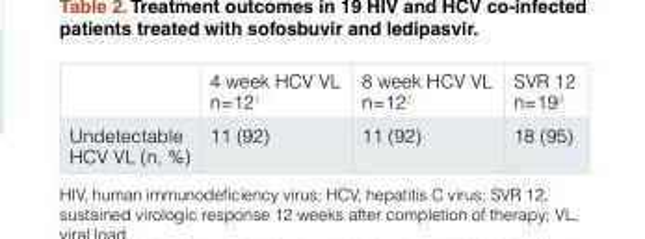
<table><thead><tr><td></td><td>4 week HCV VL n=12<sup>1</sup></td><td>8 week HCV VL n=12<sup>2</sup></td><td>SVR 12 n=19<sup>3</sup></td></tr></thead><tbody><tr><td>Undetectable HCV VL (n, %)</td><td>11 (92)</td><td>11 (92)</td><td>18 (95)</td></tr></tbody></table>